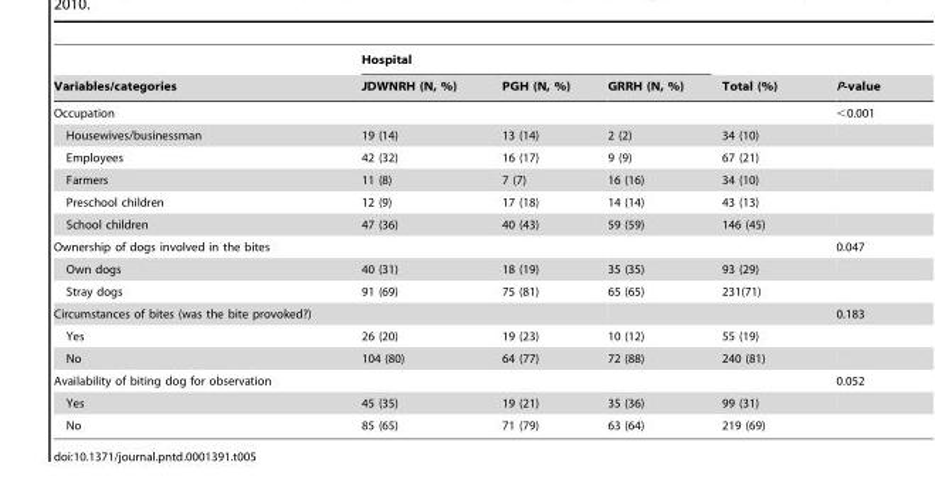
<table><thead><tr><td rowspan="2">Variables/categories</td><td colspan="3">Hospital</td><td rowspan="2">Total (%)</td><td rowspan="2">P-value</td></tr><tr><td>JDWNRH (N, %)</td><td>PGH (N, %)</td><td>GRRH (N, %)</td></tr></thead><tbody><tr><td>Occupation</td><td></td><td></td><td></td><td></td><td>&lt;0.001</td></tr><tr><td>Housewives/businessman</td><td>19 (14)</td><td>13 (14)</td><td>2 (2)</td><td>34 (10)</td><td></td></tr><tr><td>Employees</td><td>42 (32)</td><td>16 (17)</td><td>9 (9)</td><td>67 (21)</td><td></td></tr><tr><td>Farmers</td><td>11 (8)</td><td>7 (7)</td><td>16 (16)</td><td>34 (10)</td><td></td></tr><tr><td>Preschool children</td><td>12 (9)</td><td>17 (18)</td><td>14 (14)</td><td>43 (13)</td><td></td></tr><tr><td>School children</td><td>47 (36)</td><td>40 (43)</td><td>59 (59)</td><td>146 (45)</td><td></td></tr><tr><td>Ownership of dogs involved in the bites</td><td></td><td></td><td></td><td></td><td>0.047</td></tr><tr><td>Own dogs</td><td>40 (31)</td><td>18 (19)</td><td>35 (35)</td><td>93 (29)</td><td></td></tr><tr><td>Stray dogs</td><td>91 (69)</td><td>75 (81)</td><td>65 (65)</td><td>231(71)</td><td></td></tr><tr><td>Circumstances of bites (was the bite provoked?)</td><td></td><td></td><td></td><td></td><td>0.183</td></tr><tr><td>Yes</td><td>26 (20)</td><td>19 (23)</td><td>10 (12)</td><td>55 (19)</td><td></td></tr><tr><td>No</td><td>104 (80)</td><td>64 (77)</td><td>72 (88)</td><td>240 (81)</td><td></td></tr><tr><td>Availability of biting dog for observation</td><td></td><td></td><td></td><td></td><td>0.052</td></tr><tr><td>Yes</td><td>45 (35)</td><td>19 (21)</td><td>35 (36)</td><td>99 (31)</td><td></td></tr><tr><td>No</td><td>85 (65)</td><td>71 (79)</td><td>63 (64)</td><td>219 (69)</td><td></td></tr></tbody></table>